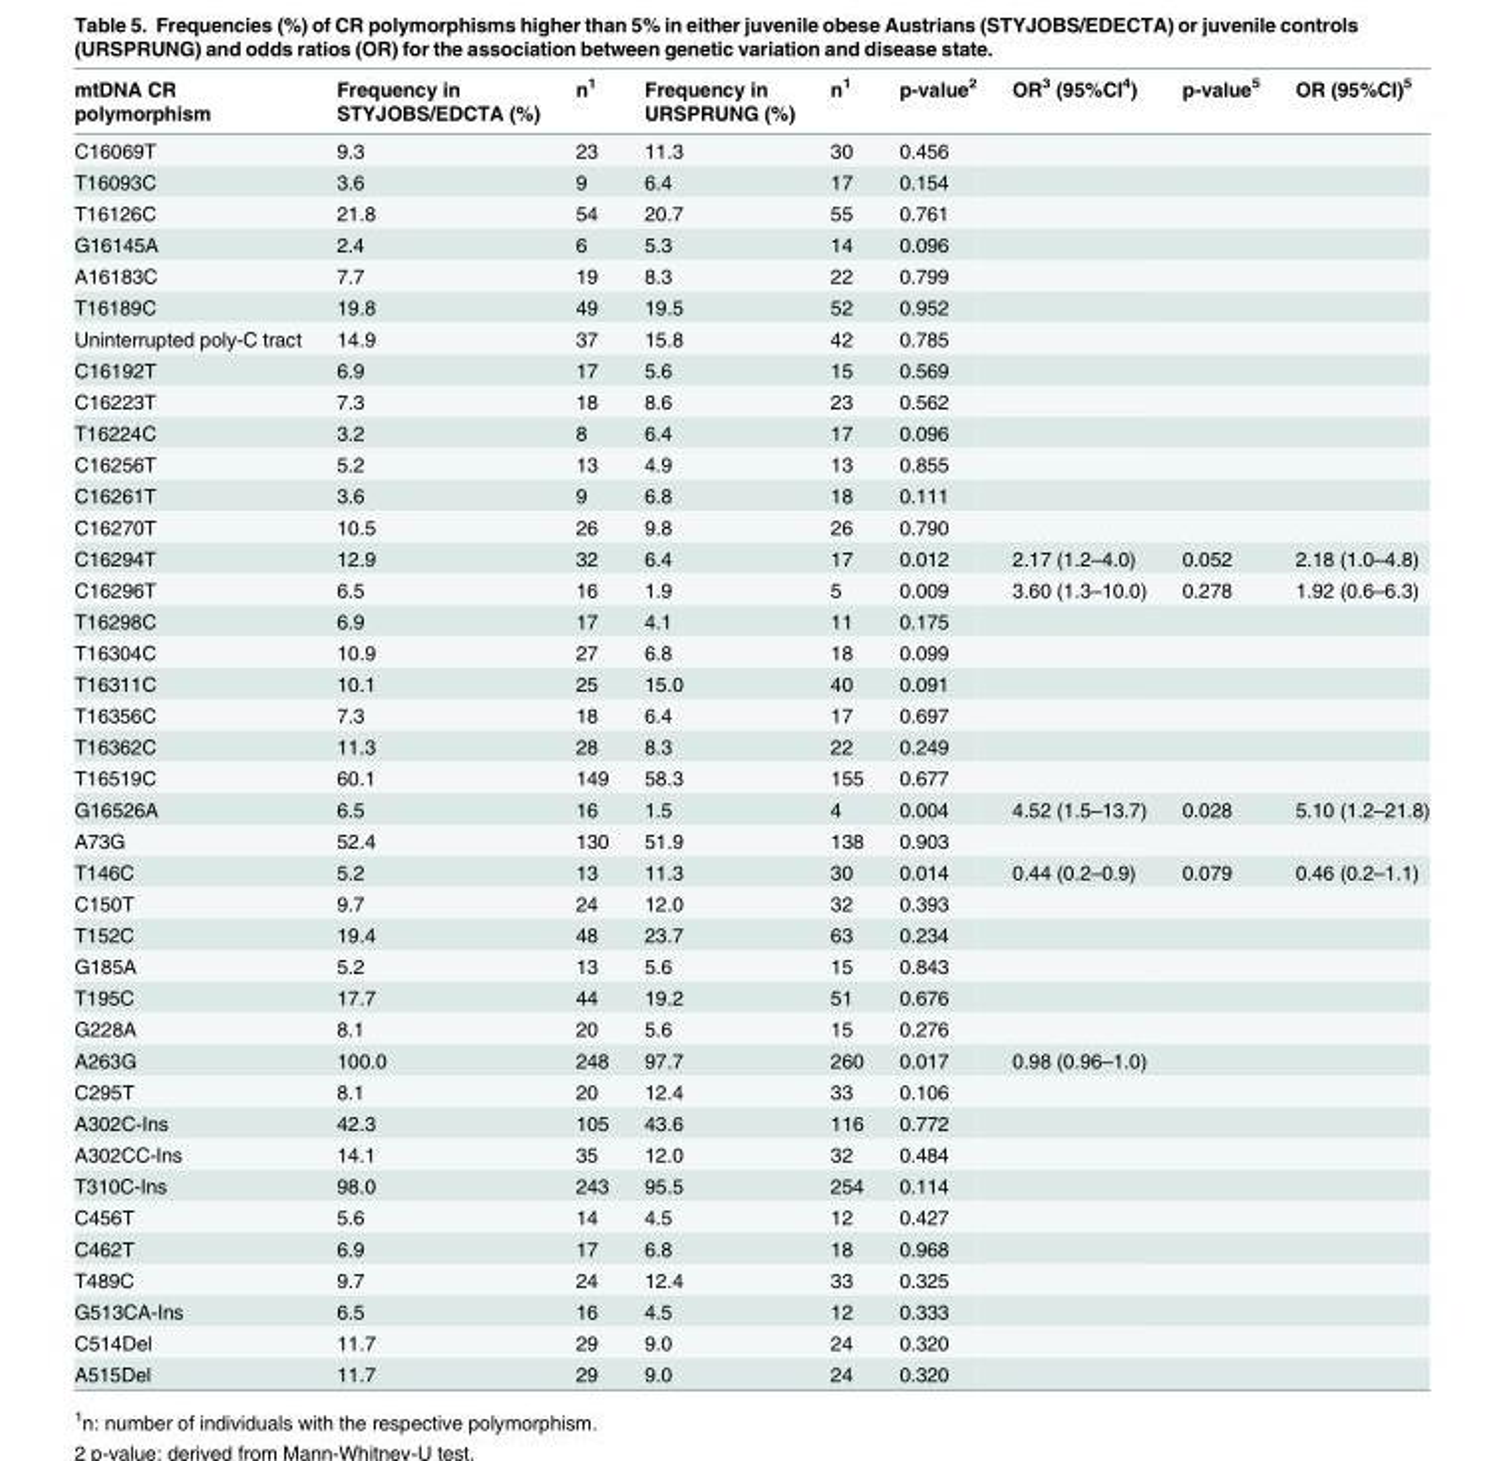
<table><thead><tr><td>mtDNA CR polymorphism</td><td>Frequency in STYJOBS/EDCTA (%)</td><td>n<sup>1</sup></td><td>Frequency in URSPRUNG (%)</td><td>n<sup>1</sup></td><td>p-value<sup>2</sup></td><td>OR<sup>3</sup> (95%CI<sup>4</sup>)</td><td>p-value<sup>5</sup></td><td>OR (95%CI)<sup>5</sup></td></tr></thead><tbody><tr><td>C16069T</td><td>9.3</td><td>23</td><td>11.3</td><td>30</td><td>0.456</td><td></td><td></td><td></td></tr><tr><td>T16093C</td><td>3.6</td><td>9</td><td>6.4</td><td>17</td><td>0.154</td><td></td><td></td><td></td></tr><tr><td>T16126C</td><td>21.8</td><td>54</td><td>20.7</td><td>55</td><td>0.761</td><td></td><td></td><td></td></tr><tr><td>G16145A</td><td>2.4</td><td>6</td><td>5.3</td><td>14</td><td>0.096</td><td></td><td></td><td></td></tr><tr><td>A16183C</td><td>7.7</td><td>19</td><td>8.3</td><td>22</td><td>0.799</td><td></td><td></td><td></td></tr><tr><td>T16189C</td><td>19.8</td><td>49</td><td>19.5</td><td>52</td><td>0.952</td><td></td><td></td><td></td></tr><tr><td>Uninterrupted poly-C tract</td><td>14.9</td><td>37</td><td>15.8</td><td>42</td><td>0.785</td><td></td><td></td><td></td></tr><tr><td>C16192T</td><td>6.9</td><td>17</td><td>5.6</td><td>15</td><td>0.569</td><td></td><td></td><td></td></tr><tr><td>C16223T</td><td>7.3</td><td>18</td><td>8.6</td><td>23</td><td>0.562</td><td></td><td></td><td></td></tr><tr><td>T16224C</td><td>3.2</td><td>8</td><td>6.4</td><td>17</td><td>0.096</td><td></td><td></td><td></td></tr><tr><td>C16256T</td><td>5.2</td><td>13</td><td>4.9</td><td>13</td><td>0.855</td><td></td><td></td><td></td></tr><tr><td>C16261T</td><td>3.6</td><td>9</td><td>6.8</td><td>18</td><td>0.111</td><td></td><td></td><td></td></tr><tr><td>C16270T</td><td>10.5</td><td>26</td><td>9.8</td><td>26</td><td>0.790</td><td></td><td></td><td></td></tr><tr><td>C16294T</td><td>12.9</td><td>32</td><td>6.4</td><td>17</td><td>0.012</td><td>2.17 (1.2–4.0)</td><td>0.052</td><td>2.18 (1.0–4.8)</td></tr><tr><td>C16296T</td><td>6.5</td><td>16</td><td>1.9</td><td>5</td><td>0.009</td><td>3.60 (1.3–10.0)</td><td>0.278</td><td>1.92 (0.6–6.3)</td></tr><tr><td>T16298C</td><td>6.9</td><td>17</td><td>4.1</td><td>11</td><td>0.175</td><td></td><td></td><td></td></tr><tr><td>T16304C</td><td>10.9</td><td>27</td><td>6.8</td><td>18</td><td>0.099</td><td></td><td></td><td></td></tr><tr><td>T16311C</td><td>10.1</td><td>25</td><td>15.0</td><td>40</td><td>0.091</td><td></td><td></td><td></td></tr><tr><td>T16356C</td><td>7.3</td><td>18</td><td>6.4</td><td>17</td><td>0.697</td><td></td><td></td><td></td></tr><tr><td>T16362C</td><td>11.3</td><td>28</td><td>8.3</td><td>22</td><td>0.249</td><td></td><td></td><td></td></tr><tr><td>T16519C</td><td>60.1</td><td>149</td><td>58.3</td><td>155</td><td>0.677</td><td></td><td></td><td></td></tr><tr><td>G16526A</td><td>6.5</td><td>16</td><td>1.5</td><td>4</td><td>0.004</td><td>4.52 (1.5–13.7)</td><td>0.028</td><td>5.10 (1.2–21.8)</td></tr><tr><td>A73G</td><td>52.4</td><td>130</td><td>51.9</td><td>138</td><td>0.903</td><td></td><td></td><td></td></tr><tr><td>T146C</td><td>5.2</td><td>13</td><td>11.3</td><td>30</td><td>0.014</td><td>0.44 (0.2–0.9)</td><td>0.079</td><td>0.46 (0.2–1.1)</td></tr><tr><td>C150T</td><td>9.7</td><td>24</td><td>12.0</td><td>32</td><td>0.393</td><td></td><td></td><td></td></tr><tr><td>T152C</td><td>19.4</td><td>48</td><td>23.7</td><td>63</td><td>0.234</td><td></td><td></td><td></td></tr><tr><td>G185A</td><td>5.2</td><td>13</td><td>5.6</td><td>15</td><td>0.843</td><td></td><td></td><td></td></tr><tr><td>T195C</td><td>17.7</td><td>44</td><td>19.2</td><td>51</td><td>0.676</td><td></td><td></td><td></td></tr><tr><td>G228A</td><td>8.1</td><td>20</td><td>5.6</td><td>15</td><td>0.276</td><td></td><td></td><td></td></tr><tr><td>A263G</td><td>100.0</td><td>248</td><td>97.7</td><td>260</td><td>0.017</td><td>0.98 (0.96–1.0)</td><td></td><td></td></tr><tr><td>C295T</td><td>8.1</td><td>20</td><td>12.4</td><td>33</td><td>0.106</td><td></td><td></td><td></td></tr><tr><td>A302C-Ins</td><td>42.3</td><td>105</td><td>43.6</td><td>116</td><td>0.772</td><td></td><td></td><td></td></tr><tr><td>A302CC-Ins</td><td>14.1</td><td>35</td><td>12.0</td><td>32</td><td>0.484</td><td></td><td></td><td></td></tr><tr><td>T310C-Ins</td><td>98.0</td><td>243</td><td>95.5</td><td>254</td><td>0.114</td><td></td><td></td><td></td></tr><tr><td>C456T</td><td>5.6</td><td>14</td><td>4.5</td><td>12</td><td>0.427</td><td></td><td></td><td></td></tr><tr><td>C462T</td><td>6.9</td><td>17</td><td>6.8</td><td>18</td><td>0.968</td><td></td><td></td><td></td></tr><tr><td>T489C</td><td>9.7</td><td>24</td><td>12.4</td><td>33</td><td>0.325</td><td></td><td></td><td></td></tr><tr><td>G513CA-Ins</td><td>6.5</td><td>16</td><td>4.5</td><td>12</td><td>0.333</td><td></td><td></td><td></td></tr><tr><td>C514Del</td><td>11.7</td><td>29</td><td>9.0</td><td>24</td><td>0.320</td><td></td><td></td><td></td></tr><tr><td>A515Del</td><td>11.7</td><td>29</td><td>9.0</td><td>24</td><td>0.320</td><td></td><td></td><td></td></tr></tbody></table>